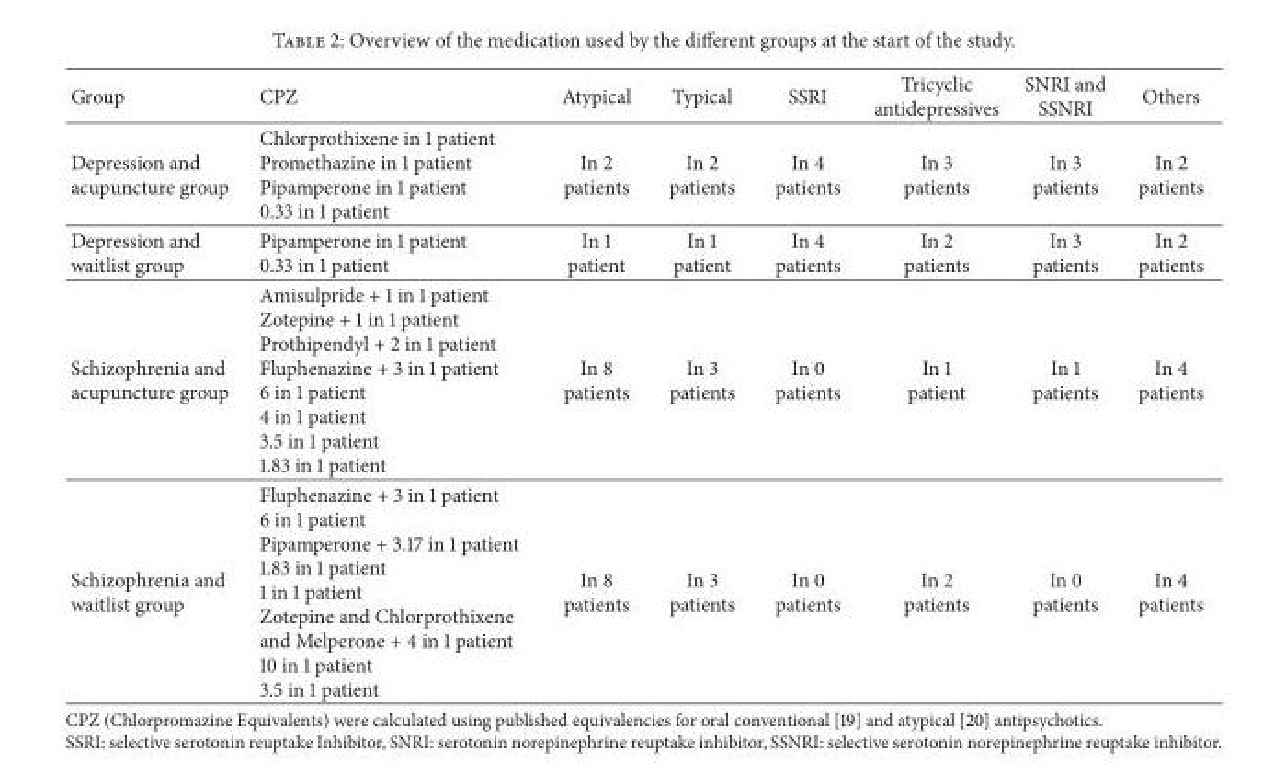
<table><thead><tr><td>Group</td><td>CPZ</td><td>Atypical</td><td>Typical</td><td>SSRI</td><td>Tricyclic antidepressives</td><td>SNRI and SSNRI</td><td>Others</td></tr></thead><tbody><tr><td>Depression and acupuncture group</td><td>Chlorprothixene in 1 patient Promethazine in 1 patient Pipamperone in 1 patient 0.33 in 1 patient</td><td>In 2 patients</td><td>In 2 patients</td><td>In 4 patients</td><td>In 3 patients</td><td>In 3 patients</td><td>In 2 patients</td></tr><tr><td>Depression and waitlist group</td><td>Pipamperone in 1 patient 0.33 in 1 patient</td><td>In 1 patient</td><td>In 1 patient</td><td>In 4 patients</td><td>In 2 patients</td><td>In 3 patients</td><td>In 2 patients</td></tr><tr><td>Schizophrenia and acupuncture group</td><td>Amisulpride + 1 in 1 patient Zotepine + 1 in 1 patient Prothipendyl + 2 in 1 patient Fluphenazine + 3 in 1 patient 6 in 1 patient 4 in 1 patient 3.5 in 1 patient 1.83 in 1 patient</td><td>In 8 patients</td><td>In 3 patients</td><td>In 0 patients</td><td>In 1 patient</td><td>In 1 patients</td><td>In 4 patients</td></tr><tr><td>Schizophrenia and waitlist group</td><td>Fluphenazine + 3 in 1 patient 6 in 1 patient Pipamperone + 3.17 in 1 patient 1.83 in 1 patient 1 in 1 patient Zotepine and Chlorprothixene and Melperone + 4 in 1 patient 10 in 1 patient 3.5 in 1 patient</td><td>In 8 patients</td><td>In 3 patients</td><td>In 0 patients</td><td>In 2 patients</td><td>In 0 patients</td><td>In 4 patients</td></tr></tbody></table>